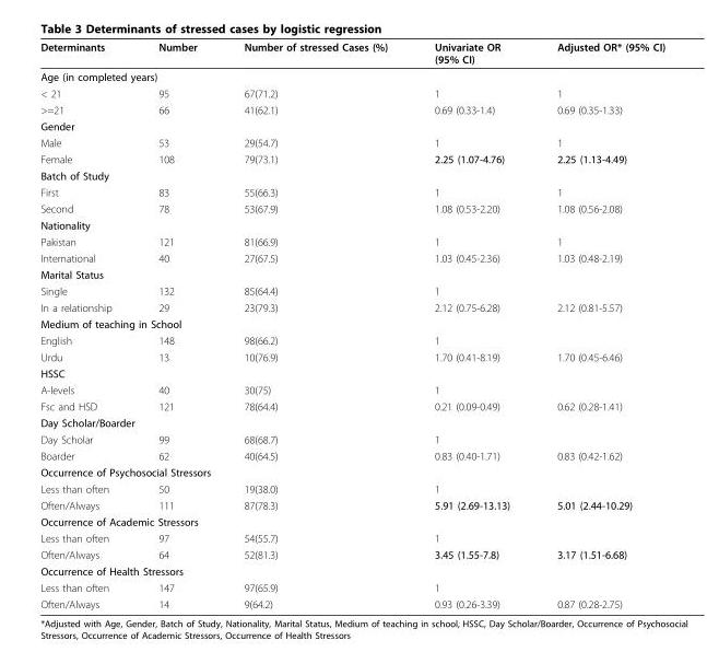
<table><thead><tr><td>Determinants</td><td>Number</td><td>Number of stressed Cases (%)</td><td>Univariate OR (95% CI)</td><td>Adjusted OR* (95% CI)</td></tr></thead><tbody><tr><td colspan="5">Age (in completed years)</td></tr><tr><td>&lt; 21</td><td>95</td><td>67(71.2)</td><td>1</td><td>1</td></tr><tr><td>&gt;=21</td><td>66</td><td>41(62.1)</td><td>0.69 (0.33-1.4)</td><td>0.69 (0.35-1.33)</td></tr><tr><td colspan="5">Gender</td></tr><tr><td>Male</td><td>53</td><td>29(54.7)</td><td>1</td><td>1</td></tr><tr><td>Female</td><td>108</td><td>79(73.1)</td><td>2.25 (1.07-4.76)</td><td>2.25 (1.13-4.49)</td></tr><tr><td colspan="5">Batch of Study</td></tr><tr><td>First</td><td>83</td><td>55(66.3)</td><td>1</td><td>1</td></tr><tr><td>Second</td><td>78</td><td>53(67.9)</td><td>1.08 (0.53-2.20)</td><td>1.08 (0.56-2.08)</td></tr><tr><td colspan="5">Nationality</td></tr><tr><td>Pakistan</td><td>121</td><td>81(66.9)</td><td>1</td><td>1</td></tr><tr><td>International</td><td>40</td><td>27(67.5)</td><td>1.03 (0.45-2.36)</td><td>1.03 (0.48-2.19)</td></tr><tr><td colspan="5">Marital Status</td></tr><tr><td>Single</td><td>132</td><td>85(64.4)</td><td>1</td><td></td></tr><tr><td>In a relationship</td><td>29</td><td>23(79.3)</td><td>2.12 (0.75-6.28)</td><td>2.12 (0.81-5.57)</td></tr><tr><td colspan="5">Medium of teaching in School</td></tr><tr><td>English</td><td>148</td><td>98(66.2)</td><td>1</td><td></td></tr><tr><td>Urdu</td><td>13</td><td>10(76.9)</td><td>1.70 (0.41-8.19)</td><td>1.70 (0.45-6.46)</td></tr><tr><td colspan="5">HSSC</td></tr><tr><td>A-levels</td><td>40</td><td>30(75)</td><td>1</td><td></td></tr><tr><td>Fsc and HSD</td><td>121</td><td>78(64.4)</td><td>0.21 (0.09-0.49)</td><td>0.62 (0.28-1.41)</td></tr><tr><td colspan="5">Day Scholar/Boarder</td></tr><tr><td>Day Scholar</td><td>99</td><td>68(68.7)</td><td>1</td><td></td></tr><tr><td>Boarder</td><td>62</td><td>40(64.5)</td><td>0.83 (0.40-1.71)</td><td>0.83 (0.42-1.62)</td></tr><tr><td colspan="5">Occurrence of Psychosocial Stressors</td></tr><tr><td>Less than often</td><td>50</td><td>19(38.0)</td><td>1</td><td></td></tr><tr><td>Often/Always</td><td>111</td><td>87(78.3)</td><td>5.91 (2.69-13.13)</td><td>5.01 (2.44-10.29)</td></tr><tr><td colspan="5">Occurrence of Academic Stressors</td></tr><tr><td>Less than often</td><td>97</td><td>54(55.7)</td><td>1</td><td></td></tr><tr><td>Often/Always</td><td>64</td><td>52(81.3)</td><td>3.45 (1.55-7.8)</td><td>3.17 (1.51-6.68)</td></tr><tr><td colspan="5">Occurrence of Health Stressors</td></tr><tr><td>Less than often</td><td>147</td><td>97(65.9)</td><td>1</td><td></td></tr><tr><td>Often/Always</td><td>14</td><td>9(64.2)</td><td>0.93 (0.26-3.39)</td><td>0.87 (0.28-2.75)</td></tr></tbody></table>